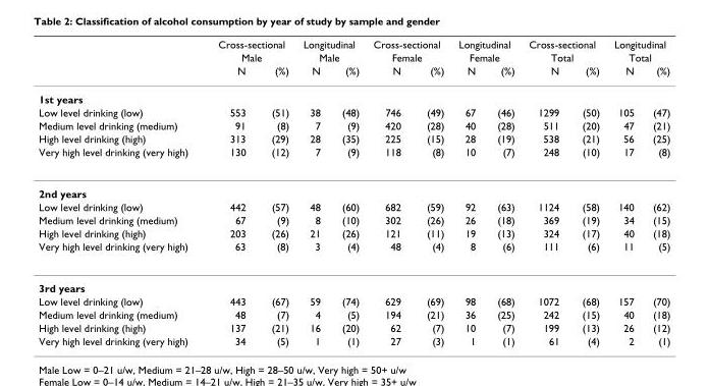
<table><thead><tr><td rowspan="3"></td><td rowspan="2" colspan="2">Cross-sectional Male</td><td rowspan="2" colspan="2">Longitudinal Male</td><td rowspan="2" colspan="2">Cross-sectional Female</td><td rowspan="2" colspan="2">Longitudinal Female</td><td rowspan="2" colspan="2">Cross-sectional Total</td><td rowspan="2" colspan="2">Longitudinal Total</td></tr><tr></tr><tr><td>N</td><td>(%)</td><td>N</td><td>(%)</td><td>N</td><td>(%)</td><td>N</td><td>(%)</td><td>N</td><td>(%)</td><td>N</td><td>(%)</td></tr></thead><tbody><tr><td colspan="13">1st years</td></tr><tr><td>Low level drinking (low)</td><td>553</td><td>(51)</td><td>38</td><td>(48)</td><td>746</td><td>(49)</td><td>67</td><td>(46)</td><td>1299</td><td>(50)</td><td>105</td><td>(47)</td></tr><tr><td>Medium level drinking (medium)</td><td>91</td><td>(8)</td><td>7</td><td>(9)</td><td>420</td><td>(28)</td><td>40</td><td>(28)</td><td>511</td><td>(20)</td><td>47</td><td>(21)</td></tr><tr><td>High level drinking (high)</td><td>313</td><td>(29)</td><td>28</td><td>(35)</td><td>225</td><td>(15)</td><td>28</td><td>(19)</td><td>538</td><td>(21)</td><td>56</td><td>(25)</td></tr><tr><td>Very high level drinking (very high)</td><td>130</td><td>(12)</td><td>7</td><td>(9)</td><td>118</td><td>(8)</td><td>10</td><td>(7)</td><td>248</td><td>(10)</td><td>17</td><td>(8)</td></tr><tr><td colspan="13">2nd years</td></tr><tr><td>Low level drinking (low)</td><td>442</td><td>(57)</td><td>48</td><td>(60)</td><td>682</td><td>(59)</td><td>92</td><td>(63)</td><td>1124</td><td>(58)</td><td>140</td><td>(62)</td></tr><tr><td>Medium level drinking (medium)</td><td>67</td><td>(9)</td><td>8</td><td>(10)</td><td>302</td><td>(26)</td><td>26</td><td>(18)</td><td>369</td><td>(19)</td><td>34</td><td>(15)</td></tr><tr><td>High level drinking (high)</td><td>203</td><td>(26)</td><td>21</td><td>(26)</td><td>121</td><td>(11)</td><td>19</td><td>(13)</td><td>324</td><td>(17)</td><td>40</td><td>(18)</td></tr><tr><td>Very high level drinking (very high)</td><td>63</td><td>(8)</td><td>3</td><td>(4)</td><td>48</td><td>(4)</td><td>8</td><td>(6)</td><td>111</td><td>(6)</td><td>11</td><td>(5)</td></tr><tr><td colspan="13">3rd years</td></tr><tr><td>Low level drinking (low)</td><td>443</td><td>(67)</td><td>59</td><td>(74)</td><td>629</td><td>(69)</td><td>98</td><td>(68)</td><td>1072</td><td>(68)</td><td>157</td><td>(70)</td></tr><tr><td>Medium level drinking (medium)</td><td>48</td><td>(7)</td><td>4</td><td>(5)</td><td>194</td><td>(21)</td><td>36</td><td>(25)</td><td>242</td><td>(15)</td><td>40</td><td>(18)</td></tr><tr><td>High level drinking (high)</td><td>137</td><td>(21)</td><td>16</td><td>(20)</td><td>62</td><td>(7)</td><td>10</td><td>(7)</td><td>199</td><td>(13)</td><td>26</td><td>(12)</td></tr><tr><td>Very high level drinking (very high)</td><td>34</td><td>(5)</td><td>1</td><td>(1)</td><td>27</td><td>(3)</td><td>1</td><td>(1)</td><td>61</td><td>(4)</td><td>2</td><td>(1)</td></tr></tbody></table>